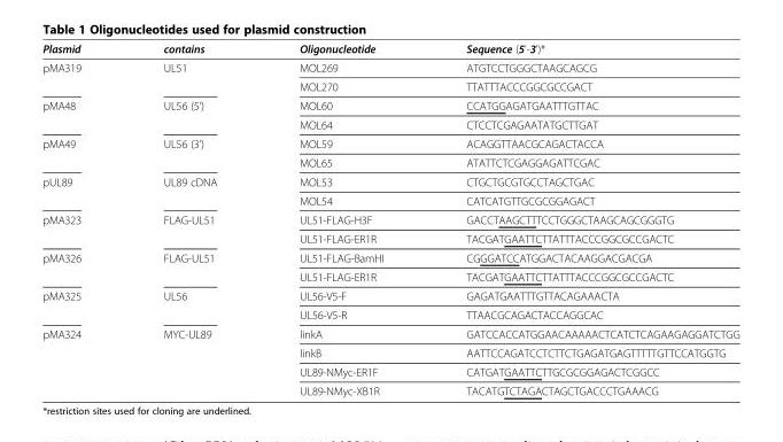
<table><thead><tr><td>Plasmid</td><td>contains</td><td>Oligonucleotide</td><td>Sequence (5&#x27;-3&#x27;)*</td></tr></thead><tbody><tr><td rowspan="2">pMA319</td><td rowspan="2">UL51</td><td>MOL269</td><td>ATGTCCTGGGCTAAGCAGCG</td></tr><tr><td>MOL270</td><td>TTATTTACCCGGCGCCGACT</td></tr><tr><td rowspan="2">pMA48</td><td rowspan="2">UL56 (5’)</td><td>MOL60</td><td>CCATGGAGATGAATTTGTTAC</td></tr><tr><td>MOL64</td><td>CTCCTCGAGAATATGCTTGAT</td></tr><tr><td rowspan="2">pMA49</td><td rowspan="2">UL56 (3’)</td><td>MOL59</td><td>ACAGGTTAACGCAGACTACCA</td></tr><tr><td>MOL65</td><td>ATATTCTCGAGGAGATTCGAC</td></tr><tr><td rowspan="2">pUL89</td><td rowspan="2">UL89 cDNA</td><td>MOL53</td><td>CTGCTGCGTGCCTAGCTGAC</td></tr><tr><td>MOL54</td><td>CATCATGTTGCGCGGAGACT</td></tr><tr><td rowspan="2">pMA323</td><td rowspan="2">FLAG-UL51</td><td>UL51-FLAG-H3F</td><td>GACCTAAGCTTTCCTGGGCTAAGCAGCGGGTG</td></tr><tr><td>UL51-FLAG-ER1R</td><td>TACGATGAATTCTTATTTACCCGGCGCCGACTC</td></tr><tr><td rowspan="2">pMA326</td><td rowspan="2">FLAG-UL51</td><td>UL51-FLAG-BamHI</td><td>CGGGATCCATGGACTACAAGGACGACGA</td></tr><tr><td>UL51-FLAG-ER1R</td><td>TACGATGAATTCTTATTTACCCGGCGCCGACTC</td></tr><tr><td rowspan="2">pMA325</td><td rowspan="2">UL56</td><td>UL56-V5-F</td><td>GAGATGAATTTGTTACAGAAACTA</td></tr><tr><td>UL56-V5-R</td><td>TTAACGCAGACTACCAGGCAC</td></tr><tr><td rowspan="4">pMA324</td><td rowspan="4">MYC-UL89</td><td>linkA</td><td>GATCCACCATGGAACAAAAACTCATCTCAGAAGAGGATCTGG</td></tr><tr><td>linkB</td><td>AATTCCAGATCCTCTTCTGAGATGAGTTTTTGTTCCATGGTG</td></tr><tr><td>UL89-NMyc-ER1F</td><td>CATGATGAATTCTTGCGCGGAGACTCGGCC</td></tr><tr><td>UL89-NMyc-XB1R</td><td>TACATGTCTAGACTAGCTGACCCTGAAACG</td></tr></tbody></table>